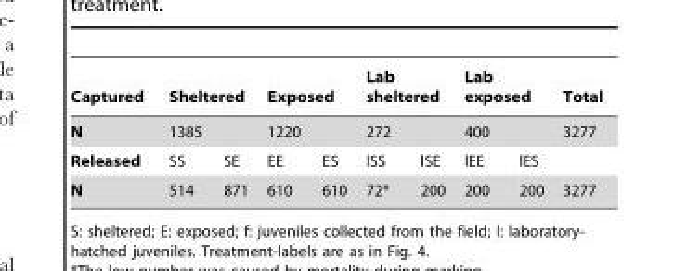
<table><thead><tr><td rowspan="3">Captured N Released</td><td rowspan="2" colspan="2">Sheltered 1385</td><td rowspan="2" colspan="2">Exposed 1220</td><td rowspan="2" colspan="2">Lab sheltered 272</td><td rowspan="2" colspan="2">Lab exposed 400</td><td rowspan="3">Total 3277</td></tr><tr></tr><tr><td>SS</td><td>SE</td><td>EE</td><td>ES</td><td>lSS</td><td>lSE</td><td>lEE</td><td>lES</td></tr></thead><tbody><tr><td>N</td><td>514</td><td>871</td><td>610</td><td>610</td><td>72*</td><td>200</td><td>200</td><td>200</td><td>3277</td></tr></tbody></table>